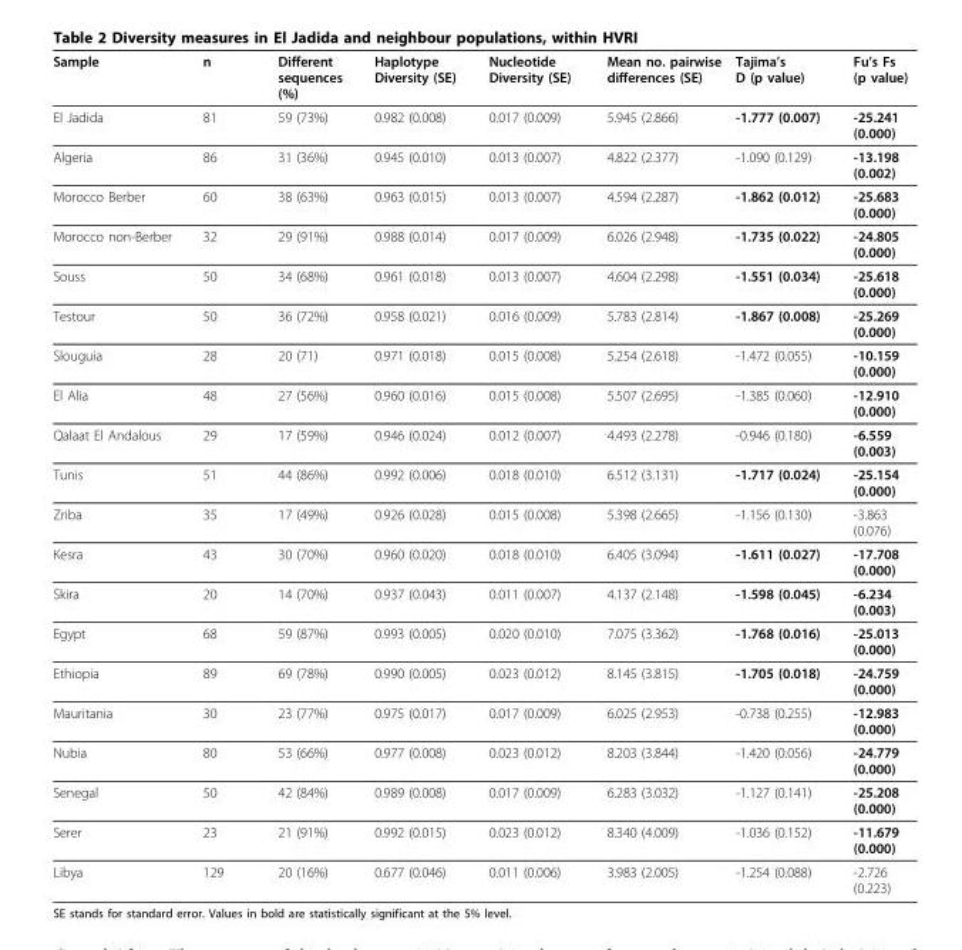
<table><thead><tr><td>Sample</td><td>n</td><td>Different sequences (%)</td><td>Haplotype Diversity (SE)</td><td>Nucleotide Diversity (SE)</td><td>Mean no. pairwise differences (SE)</td><td>Tajima’s D (p value)</td><td>Fu’s Fs (p value)</td></tr></thead><tbody><tr><td>El Jadida</td><td>81</td><td>59 (73%)</td><td>0.982 (0.008)</td><td>0.017 (0.009)</td><td>5.945 (2.866)</td><td>-1.777 (0.007)</td><td>-25.241 (0.000)</td></tr><tr><td>Algeria</td><td>86</td><td>31 (36%)</td><td>0.945 (0.010)</td><td>0.013 (0.007)</td><td>4.822 (2.377)</td><td>-1.090 (0.129)</td><td>-13.198 (0.002)</td></tr><tr><td>Morocco Berber</td><td>60</td><td>38 (63%)</td><td>0.963 (0.015)</td><td>0.013 (0.007)</td><td>4.594 (2.287)</td><td>-1.862 (0.012)</td><td>-25.683 (0.000)</td></tr><tr><td>Morocco non-Berber</td><td>32</td><td>29 (91%)</td><td>0.988 (0.014)</td><td>0.017 (0.009)</td><td>6.026 (2.948)</td><td>-1.735 (0.022)</td><td>-24.805 (0.000)</td></tr><tr><td>Souss</td><td>50</td><td>34 (68%)</td><td>0.961 (0.018)</td><td>0.013 (0.007)</td><td>4.604 (2.298)</td><td>-1.551 (0.034)</td><td>-25.618 (0.000)</td></tr><tr><td>Testour</td><td>50</td><td>36 (72%)</td><td>0.958 (0.021)</td><td>0.016 (0.009)</td><td>5.783 (2.814)</td><td>-1.867 (0.008)</td><td>-25.269 (0.000)</td></tr><tr><td>Slouguia</td><td>28</td><td>20 (71)</td><td>0.971 (0.018)</td><td>0.015 (0.008)</td><td>5.254 (2.618)</td><td>-1.472 (0.055)</td><td>-10.159 (0.000)</td></tr><tr><td>El Alia</td><td>48</td><td>27 (56%)</td><td>0.960 (0.016)</td><td>0.015 (0.008)</td><td>5.507 (2.695)</td><td>-1.385 (0.060)</td><td>-12.910 (0.000)</td></tr><tr><td>Qalaat El Andalous</td><td>29</td><td>17 (59%)</td><td>0.946 (0.024)</td><td>0.012 (0.007)</td><td>4.493 (2.278)</td><td>-0.946 (0.180)</td><td>-6.559 (0.003)</td></tr><tr><td>Tunis</td><td>51</td><td>44 (86%)</td><td>0.992 (0.006)</td><td>0.018 (0.010)</td><td>6.512 (3.131)</td><td>-1.717 (0.024)</td><td>-25.154 (0.000)</td></tr><tr><td>Zriba</td><td>35</td><td>17 (49%)</td><td>0.926 (0.028)</td><td>0.015 (0.008)</td><td>5.398 (2.665)</td><td>-1.156 (0.130)</td><td>-3.863 (0.076)</td></tr><tr><td>Kesra</td><td>43</td><td>30 (70%)</td><td>0.960 (0.020)</td><td>0.018 (0.010)</td><td>6.405 (3.094)</td><td>-1.611 (0.027)</td><td>-17.708 (0.000)</td></tr><tr><td>Skira</td><td>20</td><td>14 (70%)</td><td>0.937 (0.043)</td><td>0.011 (0.007)</td><td>4.137 (2.148)</td><td>-1.598 (0.045)</td><td>-6.234 (0.003)</td></tr><tr><td>Egypt</td><td>68</td><td>59 (87%)</td><td>0.993 (0.005)</td><td>0.020 (0.010)</td><td>7.075 (3.362)</td><td>-1.768 (0.016)</td><td>-25.013 (0.000)</td></tr><tr><td>Ethiopia</td><td>89</td><td>69 (78%)</td><td>0.990 (0.005)</td><td>0.023 (0.012)</td><td>8.145 (3.815)</td><td>-1.705 (0.018)</td><td>-24.759 (0.000)</td></tr><tr><td>Mauritania</td><td>30</td><td>23 (77%)</td><td>0.975 (0.017)</td><td>0.017 (0.009)</td><td>6.025 (2.953)</td><td>-0.738 (0.255)</td><td>-12.983 (0.000)</td></tr><tr><td>Nubia</td><td>80</td><td>53 (66%)</td><td>0.977 (0.008)</td><td>0.023 (0.012)</td><td>8.203 (3.844)</td><td>-1.420 (0.056)</td><td>-24.779 (0.000)</td></tr><tr><td>Senegal</td><td>50</td><td>42 (84%)</td><td>0.989 (0.008)</td><td>0.017 (0.009)</td><td>6.283 (3.032)</td><td>-1.127 (0.141)</td><td>-25.208 (0.000)</td></tr><tr><td>Serer</td><td>23</td><td>21 (91%)</td><td>0.992 (0.015)</td><td>0.023 (0.012)</td><td>8.340 (4.009)</td><td>-1.036 (0.152)</td><td>-11.679 (0.000)</td></tr><tr><td>Libya</td><td>129</td><td>20 (16%)</td><td>0.677 (0.046)</td><td>0.011 (0.006)</td><td>3.983 (2.005)</td><td>-1.254 (0.088)</td><td>-2.726 (0.223)</td></tr></tbody></table>